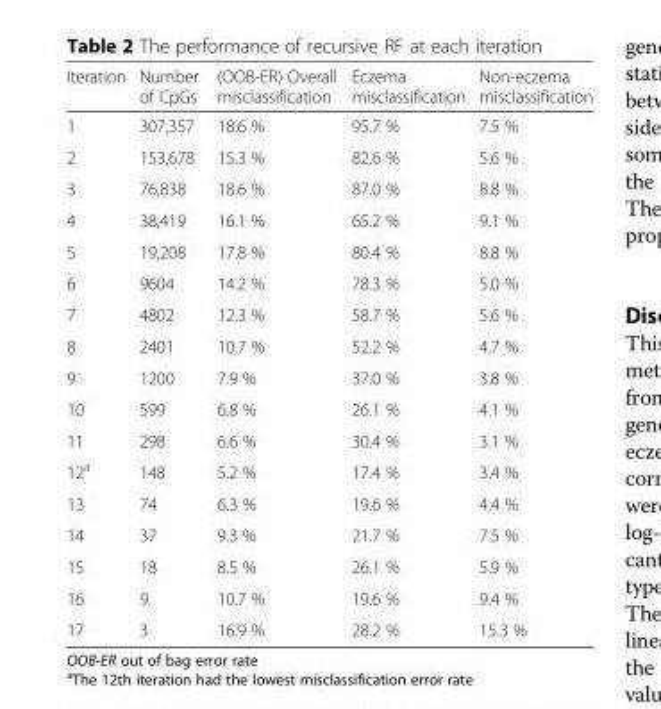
<table><thead><tr><td>Iteration</td><td>Number of CpGs</td><td>(OOB-ER) Overall misclassification</td><td>Eczema misclassification</td><td>Non-eczema misclassification</td></tr></thead><tbody><tr><td>1</td><td>307,357</td><td>18.6 %</td><td>95.7 %</td><td>7.5 %</td></tr><tr><td>2</td><td>153,678</td><td>15.3 %</td><td>82.6 %</td><td>5.6 %</td></tr><tr><td>3</td><td>76,838</td><td>18.6 %</td><td>87.0 %</td><td>8.8 %</td></tr><tr><td>4</td><td>38,419</td><td>16.1 %</td><td>65.2 %</td><td>9.1 %</td></tr><tr><td>5</td><td>19,208</td><td>17.8 %</td><td>80.4 %</td><td>8.8 %</td></tr><tr><td>6</td><td>9604</td><td>14.2 %</td><td>78.3 %</td><td>5.0 %</td></tr><tr><td>7</td><td>4802</td><td>12.3 %</td><td>58.7 %</td><td>5.6 %</td></tr><tr><td>8</td><td>2401</td><td>10.7 %</td><td>52.2 %</td><td>4.7 %</td></tr><tr><td>9</td><td>1200</td><td>7.9 %</td><td>37.0 %</td><td>3.8 %</td></tr><tr><td>10</td><td>599</td><td>6.8 %</td><td>26.1 %</td><td>4.1 %</td></tr><tr><td>11</td><td>298</td><td>6.6 %</td><td>30.4 %</td><td>3.1 %</td></tr><tr><td>12<sup>a</sup></td><td>148</td><td>5.2 %</td><td>17.4 %</td><td>3.4 %</td></tr><tr><td>13</td><td>74</td><td>6.3 %</td><td>19.6 %</td><td>4.4 %</td></tr><tr><td>14</td><td>37</td><td>9.3 %</td><td>21.7 %</td><td>7.5 %</td></tr><tr><td>15</td><td>18</td><td>8.5 %</td><td>26.1 %</td><td>5.9 %</td></tr><tr><td>16</td><td>9</td><td>10.7 %</td><td>19.6 %</td><td>9.4 %</td></tr><tr><td>17</td><td>3</td><td>16.9 %</td><td>28.2 %</td><td>15.3 %</td></tr></tbody></table>